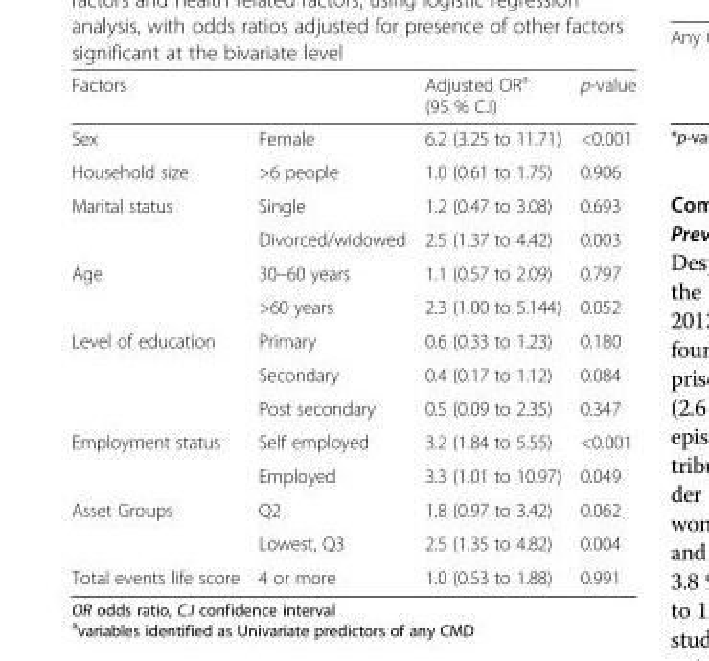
<table><thead><tr><td colspan="2">Factors</td><td rowspan="2">Adjusted OR<sup>a</sup> (95 % C.I) 6.2 (3.25 to 11.71)</td><td rowspan="2">p-value &lt;0.001</td></tr><tr><td>Sex</td><td>Female</td></tr></thead><tbody><tr><td>Household size</td><td>&gt;6 people</td><td>1.0 (0.61 to 1.75)</td><td>0.906</td></tr><tr><td rowspan="2">Marital status</td><td>Single</td><td>1.2 (0.47 to 3.08)</td><td>0.693</td></tr><tr><td>Divorced/widowed</td><td>2.5 (1.37 to 4.42)</td><td>0.003</td></tr><tr><td rowspan="2">Age</td><td>30–60 years</td><td>1.1 (0.57 to 2.09)</td><td>0.797</td></tr><tr><td>&gt;60 years</td><td>2.3 (1.00 to 5.144)</td><td>0.052</td></tr><tr><td rowspan="3">Level of education</td><td>Primary</td><td>0.6 (0.33 to 1.23)</td><td>0.180</td></tr><tr><td>Secondary</td><td>0.4 (0.17 to 1.12)</td><td>0.084</td></tr><tr><td>Post secondary</td><td>0.5 (0.09 to 2.35)</td><td>0.347</td></tr><tr><td rowspan="2">Employment status</td><td>Self employed</td><td>3.2 (1.84 to 5.55)</td><td>&lt;0.001</td></tr><tr><td>Employed</td><td>3.3 (1.01 to 10.97)</td><td>0.049</td></tr><tr><td rowspan="2">Asset Groups</td><td>Q2</td><td>1.8 (0.97 to 3.42)</td><td>0.062</td></tr><tr><td>Lowest, Q3</td><td>2.5 (1.35 to 4.82)</td><td>0.004</td></tr><tr><td>Total events life score</td><td>4 or more</td><td>1.0 (0.53 to 1.88)</td><td>0.991</td></tr></tbody></table>